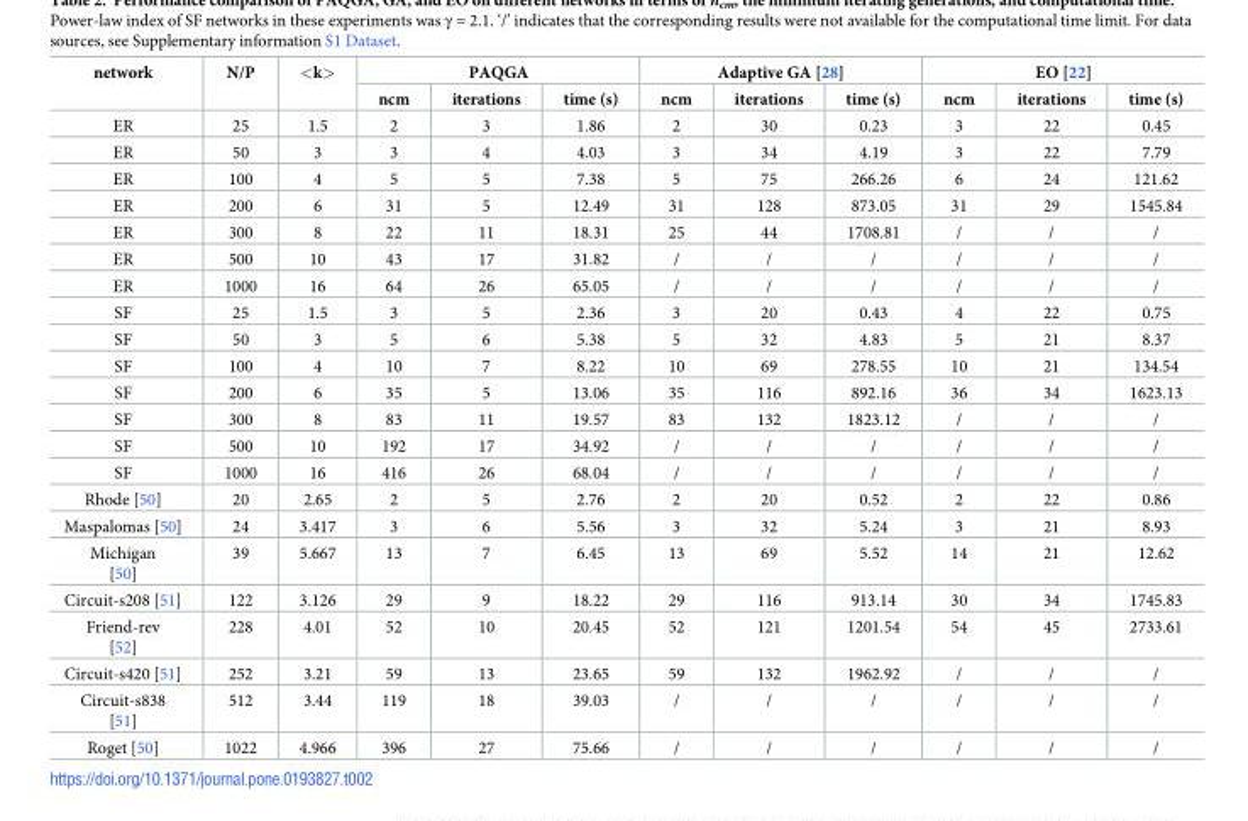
<table><thead><tr><td rowspan="2">network</td><td rowspan="2">N/P</td><td rowspan="2">&lt;k&gt;</td><td colspan="3">PAQGA</td><td colspan="3">Adaptive GA [28]</td><td colspan="3">EO [22]</td></tr><tr><td>ncm</td><td>iterations</td><td>time (s)</td><td>ncm</td><td>iterations</td><td>time (s)</td><td>ncm</td><td>iterations</td><td>time (s)</td></tr></thead><tbody><tr><td>ER</td><td>25</td><td>1.5</td><td>2</td><td>3</td><td>1.86</td><td>2</td><td>30</td><td>0.23</td><td>3</td><td>22</td><td>0.45</td></tr><tr><td>ER</td><td>50</td><td>3</td><td>3</td><td>4</td><td>4.03</td><td>3</td><td>34</td><td>4.19</td><td>3</td><td>22</td><td>7.79</td></tr><tr><td>ER</td><td>100</td><td>4</td><td>5</td><td>5</td><td>7.38</td><td>5</td><td>75</td><td>266.26</td><td>6</td><td>24</td><td>121.62</td></tr><tr><td>ER</td><td>200</td><td>6</td><td>31</td><td>5</td><td>12.49</td><td>31</td><td>128</td><td>873.05</td><td>31</td><td>29</td><td>1545.84</td></tr><tr><td>ER</td><td>300</td><td>8</td><td>22</td><td>11</td><td>18.31</td><td>25</td><td>44</td><td>1708.81</td><td>/</td><td>/</td><td>/</td></tr><tr><td>ER</td><td>500</td><td>10</td><td>43</td><td>17</td><td>31.82</td><td>/</td><td>/</td><td>/</td><td>/</td><td>/</td><td>/</td></tr><tr><td>ER</td><td>1000</td><td>16</td><td>64</td><td>26</td><td>65.05</td><td>/</td><td>/</td><td>/</td><td>/</td><td>/</td><td>/</td></tr><tr><td>SF</td><td>25</td><td>1.5</td><td>3</td><td>5</td><td>2.36</td><td>3</td><td>20</td><td>0.43</td><td>4</td><td>22</td><td>0.75</td></tr><tr><td>SF</td><td>50</td><td>3</td><td>5</td><td>6</td><td>5.38</td><td>5</td><td>32</td><td>4.83</td><td>5</td><td>21</td><td>8.37</td></tr><tr><td>SF</td><td>100</td><td>4</td><td>10</td><td>7</td><td>8.22</td><td>10</td><td>69</td><td>278.55</td><td>10</td><td>21</td><td>134.54</td></tr><tr><td>SF</td><td>200</td><td>6</td><td>35</td><td>5</td><td>13.06</td><td>35</td><td>116</td><td>892.16</td><td>36</td><td>34</td><td>1623.13</td></tr><tr><td>SF</td><td>300</td><td>8</td><td>83</td><td>11</td><td>19.57</td><td>83</td><td>132</td><td>1823.12</td><td>/</td><td>/</td><td>/</td></tr><tr><td>SF</td><td>500</td><td>10</td><td>192</td><td>17</td><td>34.92</td><td>/</td><td>/</td><td>/</td><td>/</td><td>/</td><td>/</td></tr><tr><td>SF</td><td>1000</td><td>16</td><td>416</td><td>26</td><td>68.04</td><td>/</td><td>/</td><td>/</td><td>/</td><td>/</td><td>/</td></tr><tr><td>Rhode [50]</td><td>20</td><td>2.65</td><td>2</td><td>5</td><td>2.76</td><td>2</td><td>20</td><td>0.52</td><td>2</td><td>22</td><td>0.86</td></tr><tr><td>Maspalomas [50]</td><td>24</td><td>3.417</td><td>3</td><td>6</td><td>5.56</td><td>3</td><td>32</td><td>5.24</td><td>3</td><td>21</td><td>8.93</td></tr><tr><td>Michigan [50]</td><td>39</td><td>5.667</td><td>13</td><td>7</td><td>6.45</td><td>13</td><td>69</td><td>5.52</td><td>14</td><td>21</td><td>12.62</td></tr><tr><td>Circuit-s208 [51]</td><td>122</td><td>3.126</td><td>29</td><td>9</td><td>18.22</td><td>29</td><td>116</td><td>913.14</td><td>30</td><td>34</td><td>1745.83</td></tr><tr><td>Friend-rev [52]</td><td>228</td><td>4.01</td><td>52</td><td>10</td><td>20.45</td><td>52</td><td>121</td><td>1201.54</td><td>54</td><td>45</td><td>2733.61</td></tr><tr><td>Circuit-s420 [51]</td><td>252</td><td>3.21</td><td>59</td><td>13</td><td>23.65</td><td>59</td><td>132</td><td>1962.92</td><td>/</td><td>/</td><td>/</td></tr><tr><td>Circuit-s838 [51]</td><td>512</td><td>3.44</td><td>119</td><td>18</td><td>39.03</td><td>/</td><td>/</td><td>/</td><td>/</td><td>/</td><td>/</td></tr><tr><td>Roget [50]</td><td>1022</td><td>4.966</td><td>396</td><td>27</td><td>75.66</td><td>/</td><td>/</td><td>/</td><td>/</td><td>/</td><td>/</td></tr></tbody></table>